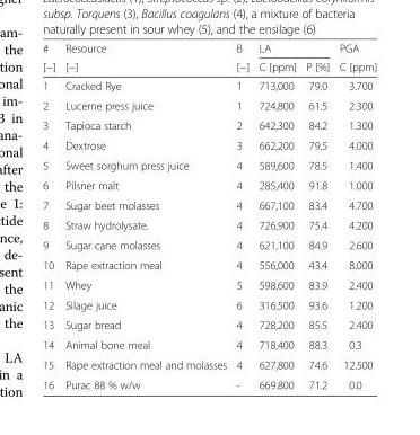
<table><thead><tr><td rowspan="2"># [−]</td><td rowspan="2">Resource [−]</td><td rowspan="2">B [−]</td><td colspan="2">LA</td><td rowspan="2">PGA C [ppm]</td></tr><tr><td>C [ppm]</td><td>P [%]</td></tr></thead><tbody><tr><td>1</td><td>Cracked Rye</td><td>1</td><td>713,000</td><td>79.0</td><td>3.700</td></tr><tr><td>2</td><td>Lucerne press juice</td><td>1</td><td>724,800</td><td>61.5</td><td>2.300</td></tr><tr><td>3</td><td>Tapioca starch</td><td>2</td><td>642,300</td><td>84.2</td><td>1.300</td></tr><tr><td>4</td><td>Dextrose</td><td>3</td><td>662,200</td><td>79.5</td><td>4.000</td></tr><tr><td>5</td><td>Sweet sorghum press juice</td><td>4</td><td>589,600</td><td>78.5</td><td>1.400</td></tr><tr><td>6</td><td>Pilsner malt</td><td>4</td><td>285,400</td><td>91.8</td><td>1.000</td></tr><tr><td>7</td><td>Sugar beet molasses</td><td>4</td><td>667,100</td><td>83.4</td><td>4.700</td></tr><tr><td>8</td><td>Straw hydrolysate.</td><td>4</td><td>726,900</td><td>75.4</td><td>4.200</td></tr><tr><td>9</td><td>Sugar cane molasses</td><td>4</td><td>621,100</td><td>84.9</td><td>2.600</td></tr><tr><td>10</td><td>Rape extraction meal</td><td>4</td><td>556,000</td><td>43.4</td><td>8.000</td></tr><tr><td>11</td><td>Whey</td><td>5</td><td>598,600</td><td>83.9</td><td>2.400</td></tr><tr><td>12</td><td>Silage juice</td><td>6</td><td>316,500</td><td>93.6</td><td>1.200</td></tr><tr><td>13</td><td>Sugar bread</td><td>4</td><td>728,200</td><td>85.5</td><td>2.400</td></tr><tr><td>14</td><td>Animal bone meal</td><td>4</td><td>718,400</td><td>88.3</td><td>0.3</td></tr><tr><td>15</td><td>Rape extraction meal and molasses</td><td>4</td><td>627,800</td><td>74.6</td><td>12.500</td></tr><tr><td>16</td><td>Purac 88 % w/w</td><td>-</td><td>669.800</td><td>71.2</td><td>0.0</td></tr></tbody></table>